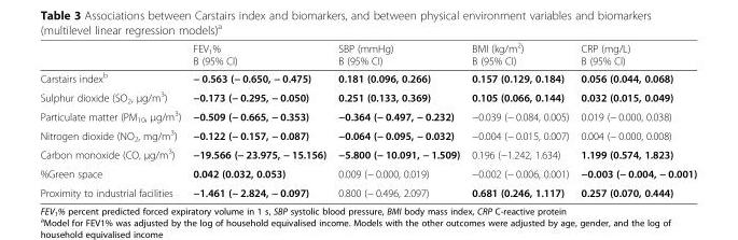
<table><thead><tr><td></td><td>FEV<sub>1</sub>% B (95% CI)</td><td>SBP (mmHg) B (95% CI)</td><td>BMI (kg/m<sup>2</sup>) B (95% CI)</td><td>CRP (mg/L) B (95% CI)</td></tr></thead><tbody><tr><td>Carstairs index<sup>b</sup></td><td>− 0.563 (− 0.650, − 0.475)</td><td>0.181 (0.096, 0.266)</td><td>0.157 (0.129, 0.184)</td><td>0.056 (0.044, 0.068)</td></tr><tr><td>Sulphur dioxide (SO<sub>2</sub>, μg/m<sup>3</sup>)</td><td>−0.173 (− 0.295, − 0.050)</td><td>0.251 (0.133, 0.369)</td><td>0.105 (0.066, 0.144)</td><td>0.032 (0.015, 0.049)</td></tr><tr><td>Particulate matter (PM<sub>10</sub>, μg/m<sup>3</sup>)</td><td>−0.509 (− 0.665, − 0.353)</td><td>−0.364 (− 0.497, − 0.232)</td><td>−0.039 (− 0.084, 0.005)</td><td>0.019 (− 0.000, 0.038)</td></tr><tr><td>Nitrogen dioxide (NO<sub>2</sub>, mg/m<sup>3</sup>)</td><td>−0.122 (− 0.157, − 0.087)</td><td>−0.064 (− 0.095, − 0.032)</td><td>−0.004 (− 0.015, 0.007)</td><td>0.004 (− 0.000, 0.008)</td></tr><tr><td>Carbon monoxide (CO, μg/m<sup>3</sup>)</td><td>−19.566 (− 23.975, − 15.156)</td><td>−5.800 (− 10.091, − 1.509)</td><td>0.196 (−1.242, 1.634)</td><td>1.199 (0.574, 1.823)</td></tr><tr><td>%Green space</td><td>0.042 (0.032, 0.053)</td><td>0.009 (− 0.000, 0.019)</td><td>−0.002 (− 0.006, 0.001)</td><td>−0.003 (− 0.004, − 0.001)</td></tr><tr><td>Proximity to industrial facilities</td><td>−1.461 (− 2.824, − 0.097)</td><td>0.800 (− 0.496, 2.097)</td><td>0.681 (0.246, 1.117)</td><td>0.257 (0.070, 0.444)</td></tr></tbody></table>